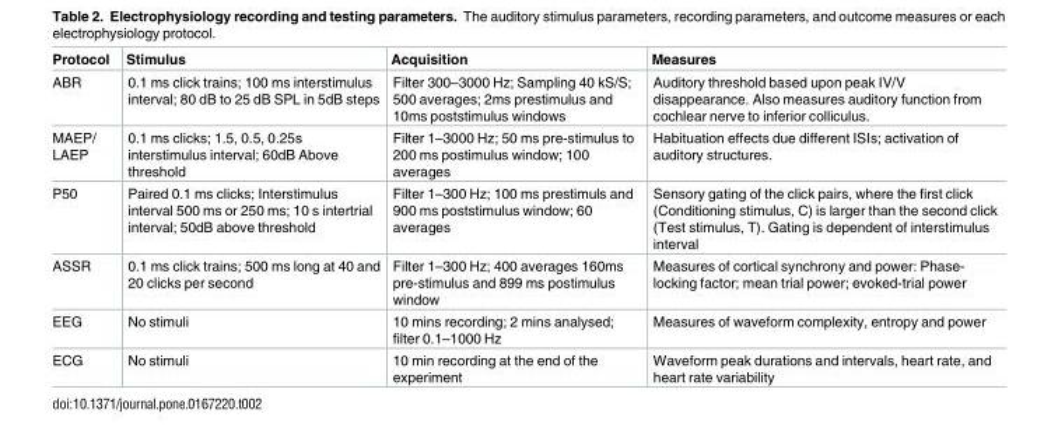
<table><thead><tr><td>Protocol</td><td>Stimulus</td><td>Acquisition</td><td>Measures</td></tr></thead><tbody><tr><td>ABR</td><td>0.1 ms click trains; 100 ms interstimulus interval; 80 dB to 25 dB SPL in 5dB steps</td><td>Filter 300–3000 Hz; Sampling 40 kS/S; 500 averages; 2ms prestimulus and 10ms poststimulus windows</td><td>Auditory threshold based upon peak IV/V disappearance. Also measures auditory function from cochlear nerve to inferior colliculus.</td></tr><tr><td>MAEP/ LAEP</td><td>0.1 ms clicks; 1.5, 0.5, 0.25s interstimulus interval; 60dB Above threshold</td><td>Filter 1–3000 Hz; 50 ms pre-stimulus to 200 ms postimulus window; 100 averages</td><td>Habituation effects due different ISIs; activation of auditory structures.</td></tr><tr><td>P50</td><td>Paired 0.1 ms clicks; Interstimulus interval 500 ms or 250 ms; 10 s intertrial interval; 50dB above threshold</td><td>Filter 1–300 Hz; 100 ms prestimuls and 900 ms poststimulus window; 60 averages</td><td>Sensory gating of the click pairs, where the first click (Conditioning stimulus, C) is larger than the second click (Test stimulus, T). Gating is dependent of interstimulus interval</td></tr><tr><td>ASSR</td><td>0.1 ms click trains; 500 ms long at 40 and 20 clicks per second</td><td>Filter 1–300 Hz; 400 averages 160ms pre-stimulus and 899 ms postimulus window</td><td>Measures of cortical synchrony and power: Phase- locking factor; mean trial power; evoked-trial power</td></tr><tr><td>EEG</td><td>No stimuli</td><td>10 mins recording; 2 mins analysed; filter 0.1–1000 Hz</td><td>Measures of waveform complexity, entropy and power</td></tr><tr><td>ECG</td><td>No stimuli</td><td>10 min recording at the end of the experiment</td><td>Waveform peak durations and intervals, heart rate, and heart rate variability</td></tr></tbody></table>